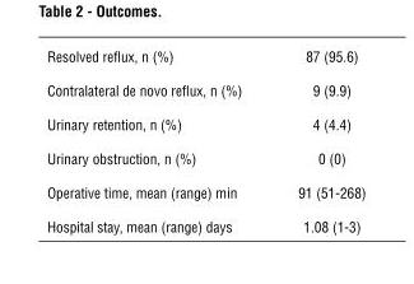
<table><tbody><tr><td>Resolved reflux, n (%)</td><td>87 (95.6)</td></tr><tr><td>Contralateral de novo reflux, n (%)</td><td>9 (9.9)</td></tr><tr><td>Urinary retention, n (%)</td><td>4 (4.4)</td></tr><tr><td>Urinary obstruction, n (%)</td><td>0 (0)</td></tr><tr><td>Operative time, mean (range) min</td><td>91 (51-268)</td></tr><tr><td>Hospital stay, mean (range) days</td><td>1.08 (1-3)</td></tr></tbody></table>